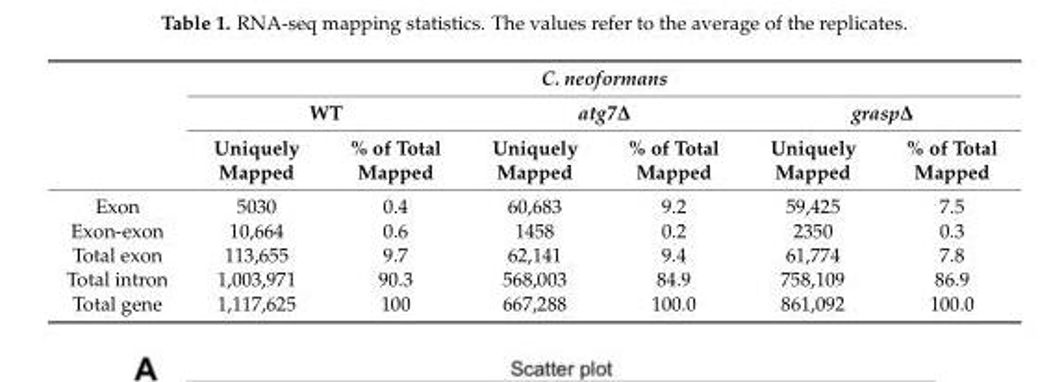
<table><thead><tr><td rowspan="3"></td><td colspan="6">C. neoformans</td></tr><tr><td colspan="2">WT</td><td colspan="2">atg7∆</td><td colspan="2">grasp∆</td></tr><tr><td>Uniquely Mapped</td><td>% of Total Mapped</td><td>Uniquely Mapped</td><td>% of Total Mapped</td><td>Uniquely Mapped</td><td>% of Total Mapped</td></tr></thead><tbody><tr><td>Exon</td><td>5030</td><td>0.4</td><td>60,683</td><td>9.2</td><td>59,425</td><td>7.5</td></tr><tr><td>Exon-exon</td><td>10,664</td><td>0.6</td><td>1458</td><td>0.2</td><td>2350</td><td>0.3</td></tr><tr><td>Total exon</td><td>113,655</td><td>9.7</td><td>62,141</td><td>9.4</td><td>61,774</td><td>7.8</td></tr><tr><td>Total intron</td><td>1,003,971</td><td>90.3</td><td>568,003</td><td>84.9</td><td>758,109</td><td>86.9</td></tr><tr><td>Total gene</td><td>1,117,625</td><td>100</td><td>667,288</td><td>100.0</td><td>861,092</td><td>100.0</td></tr></tbody></table>